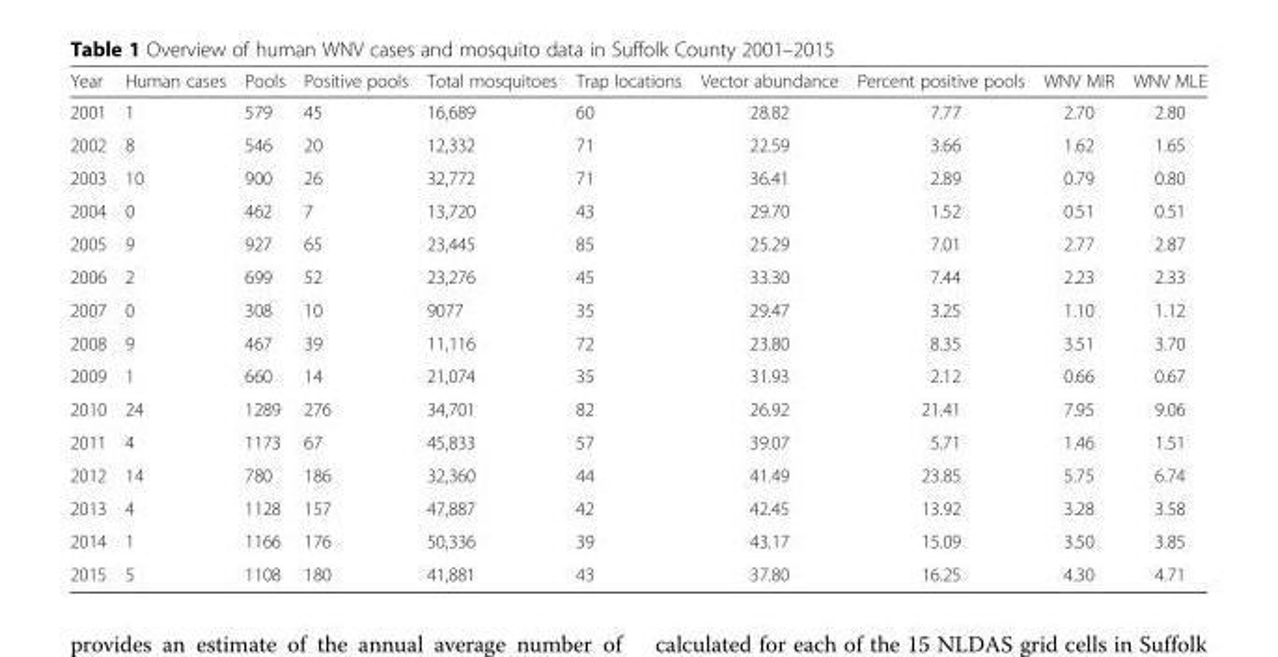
<table><thead><tr><td>Year</td><td>Human cases</td><td>Pools</td><td>Positive pools</td><td>Total mosquitoes</td><td>Trap locations</td><td>Vector abundance</td><td>Percent positive pools</td><td>WNV MIR</td><td>WNV MLE</td></tr></thead><tbody><tr><td>2001</td><td>1</td><td>579</td><td>45</td><td>16,689</td><td>60</td><td>28.82</td><td>7.77</td><td>2.70</td><td>2.80</td></tr><tr><td>2002</td><td>8</td><td>546</td><td>20</td><td>12,332</td><td>71</td><td>22.59</td><td>3.66</td><td>1.62</td><td>1.65</td></tr><tr><td>2003</td><td>10</td><td>900</td><td>26</td><td>32,772</td><td>71</td><td>36.41</td><td>2.89</td><td>0.79</td><td>0.80</td></tr><tr><td>2004</td><td>0</td><td>462</td><td>7</td><td>13,720</td><td>43</td><td>29.70</td><td>1.52</td><td>0.51</td><td>0.51</td></tr><tr><td>2005</td><td>9</td><td>927</td><td>65</td><td>23,445</td><td>85</td><td>25.29</td><td>7.01</td><td>2.77</td><td>2.87</td></tr><tr><td>2006</td><td>2</td><td>699</td><td>52</td><td>23,276</td><td>45</td><td>33.30</td><td>7.44</td><td>2.23</td><td>2.33</td></tr><tr><td>2007</td><td>0</td><td>308</td><td>10</td><td>9077</td><td>35</td><td>29.47</td><td>3.25</td><td>1.10</td><td>1.12</td></tr><tr><td>2008</td><td>9</td><td>467</td><td>39</td><td>11,116</td><td>72</td><td>23.80</td><td>8.35</td><td>3.51</td><td>3.70</td></tr><tr><td>2009</td><td>1</td><td>660</td><td>14</td><td>21,074</td><td>35</td><td>31.93</td><td>2.12</td><td>0.66</td><td>0.67</td></tr><tr><td>2010</td><td>24</td><td>1289</td><td>276</td><td>34,701</td><td>82</td><td>26.92</td><td>21.41</td><td>7.95</td><td>9.06</td></tr><tr><td>2011</td><td>4</td><td>1173</td><td>67</td><td>45,833</td><td>57</td><td>39.07</td><td>5.71</td><td>1.46</td><td>1.51</td></tr><tr><td>2012</td><td>14</td><td>780</td><td>186</td><td>32,360</td><td>44</td><td>41.49</td><td>23.85</td><td>5.75</td><td>6.74</td></tr><tr><td>2013</td><td>4</td><td>1128</td><td>157</td><td>47,887</td><td>42</td><td>42.45</td><td>13.92</td><td>3.28</td><td>3.58</td></tr><tr><td>2014</td><td>1</td><td>1166</td><td>176</td><td>50,336</td><td>39</td><td>43.17</td><td>15.09</td><td>3.50</td><td>3.85</td></tr><tr><td>2015</td><td>5</td><td>1108</td><td>180</td><td>41,881</td><td>43</td><td>37.80</td><td>16.25</td><td>4.30</td><td>4.71</td></tr></tbody></table>